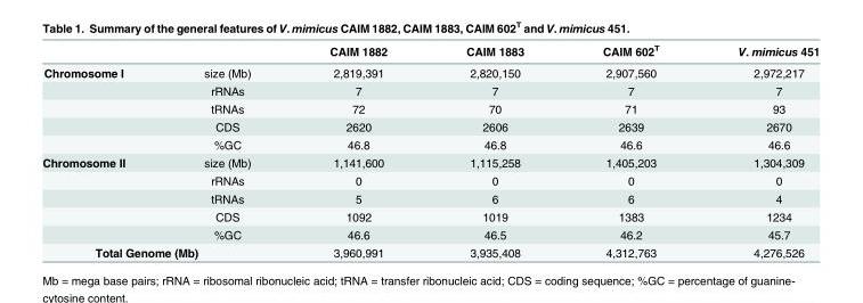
<table><thead><tr><td></td><td></td><td>CAIM 1882</td><td>CAIM 1883</td><td>CAIM 602<sup>T</sup></td><td>V. mimicus 451</td></tr></thead><tbody><tr><td rowspan="5">Chromosome I</td><td>size (Mb)</td><td>2,819,391</td><td>2,820,150</td><td>2,907,560</td><td>2,972,217</td></tr><tr><td>rRNAs</td><td>7</td><td>7</td><td>7</td><td>7</td></tr><tr><td>tRNAs</td><td>72</td><td>70</td><td>71</td><td>93</td></tr><tr><td>CDS</td><td>2620</td><td>2606</td><td>2639</td><td>2670</td></tr><tr><td>%GC</td><td>46.8</td><td>46.8</td><td>46.6</td><td>46.6</td></tr><tr><td rowspan="5">Chromosome II</td><td>size (Mb)</td><td>1,141,600</td><td>1,115,258</td><td>1,405,203</td><td>1,304,309</td></tr><tr><td>rRNAs</td><td>0</td><td>0</td><td>0</td><td>0</td></tr><tr><td>tRNAs</td><td>5</td><td>6</td><td>6</td><td>4</td></tr><tr><td>CDS</td><td>1092</td><td>1019</td><td>1383</td><td>1234</td></tr><tr><td>%GC</td><td>46.6</td><td>46.5</td><td>46.2</td><td>45.7</td></tr><tr><td colspan="2">Total Genome (Mb)</td><td>3,960,991</td><td>3,935,408</td><td>4,312,763</td><td>4,276,526</td></tr></tbody></table>